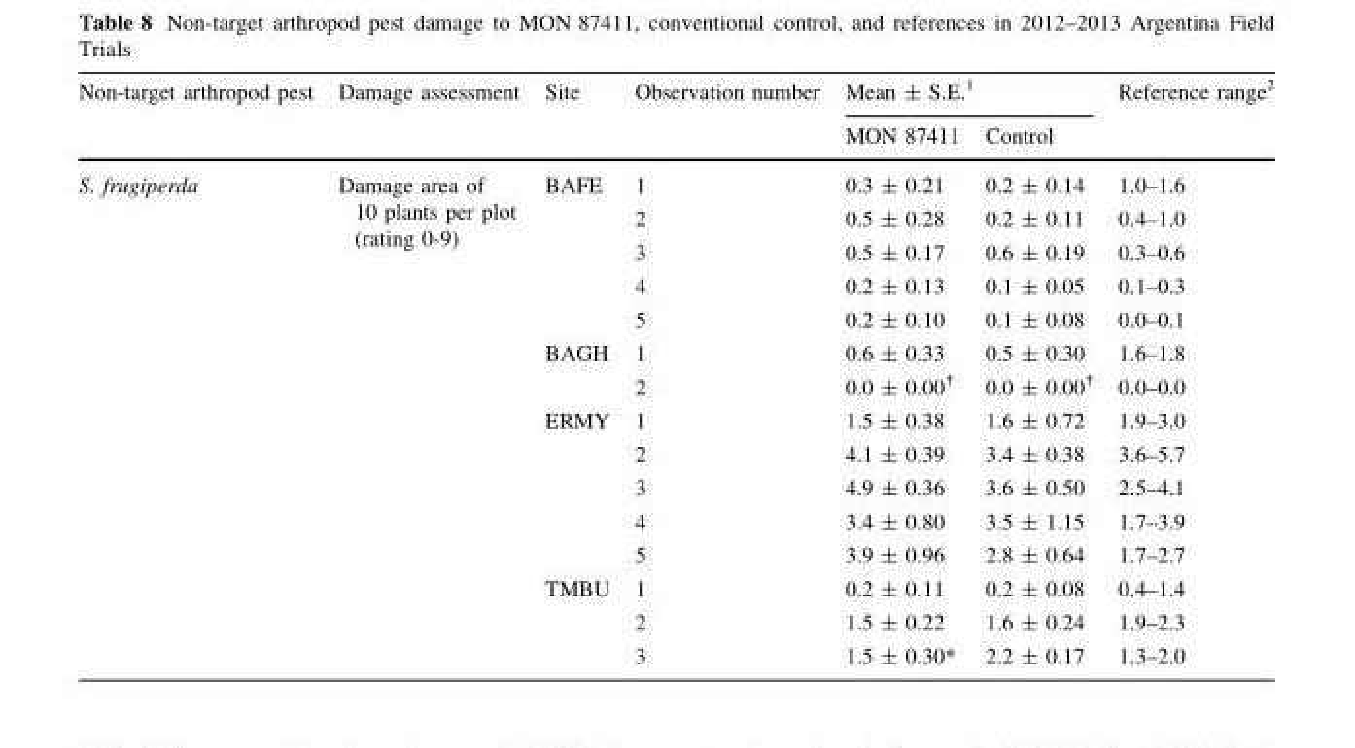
<table><thead><tr><td rowspan="2">Non-target arthropod pest</td><td rowspan="2">Damage assessment</td><td rowspan="2">Site</td><td rowspan="2">Observation number</td><td colspan="2">Mean ± S.E.<sup>1</sup></td><td rowspan="2">Reference range<sup>2</sup></td></tr><tr><td>MON 87411</td><td>Control</td></tr></thead><tbody><tr><td rowspan="15">S. frugiperda</td><td rowspan="15">Damage area of 10 plants per plot (rating 0-9)</td><td rowspan="5">BAFE</td><td>1</td><td>0.3 ± 0.21</td><td>0.2 ± 0.14</td><td>1.0–1.6</td></tr><tr><td>2</td><td>0.5 ± 0.28</td><td>0.2 ± 0.11</td><td>0.4–1.0</td></tr><tr><td>3</td><td>0.5 ± 0.17</td><td>0.6 ± 0.19</td><td>0.3–0.6</td></tr><tr><td>4</td><td>0.2 ± 0.13</td><td>0.1 ± 0.05</td><td>0.1–0.3</td></tr><tr><td>5</td><td>0.2 ± 0.10</td><td>0.1 ± 0.08</td><td>0.0–0.1</td></tr><tr><td rowspan="2">BAGH</td><td>1</td><td>0.6 ± 0.33</td><td>0.5 ± 0.30</td><td>1.6–1.8</td></tr><tr><td>2</td><td>0.0 ± 0.00<sup>†</sup></td><td>0.0 ± 0.00<sup>†</sup></td><td>0.0–0.0</td></tr><tr><td rowspan="5">ERMY</td><td>1</td><td>1.5 ± 0.38</td><td>1.6 ± 0.72</td><td>1.9–3.0</td></tr><tr><td>2</td><td>4.1 ± 0.39</td><td>3.4 ± 0.38</td><td>3.6–5.7</td></tr><tr><td>3</td><td>4.9 ± 0.36</td><td>3.6 ± 0.50</td><td>2.5–4.1</td></tr><tr><td>4</td><td>3.4 ± 0.80</td><td>3.5 ± 1.15</td><td>1.7–3.9</td></tr><tr><td>5</td><td>3.9 ± 0.96</td><td>2.8 ± 0.64</td><td>1.7–2.7</td></tr><tr><td rowspan="3">TMBU</td><td>1</td><td>0.2 ± 0.11</td><td>0.2 ± 0.08</td><td>0.4–1.4</td></tr><tr><td>2</td><td>1.5 ± 0.22</td><td>1.6 ± 0.24</td><td>1.9–2.3</td></tr><tr><td>3</td><td>1.5 ± 0.30*</td><td>2.2 ± 0.17</td><td>1.3–2.0</td></tr></tbody></table>